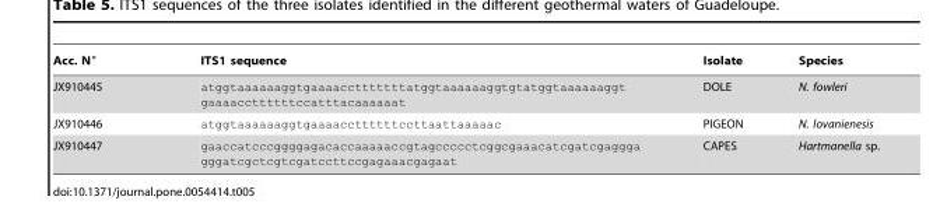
<table><thead><tr><td>Acc. N°</td><td>ITS1 sequence</td><td>Isolate</td><td>Species</td></tr></thead><tbody><tr><td>JX910445</td><td>atggtaaaaaaggtgaaaacctttttttatggtaaaaaaggtgtatggtaaaaaaggt gaaaaccttttttccatttacaaaaaat</td><td>DOLE</td><td>N. fowleri</td></tr><tr><td>JX910446</td><td>atggtaaaaaaggtgaaaaccttttttccttaattaaaaac</td><td>PIGEON</td><td>N. lovanienesis</td></tr><tr><td>JX910447</td><td>gaaccatcccggggagacaccaaaaaccgtagccccctcggcgaaacatcgatcgaggga gggatcgctcgtcgatccttccgagaaacgagaat</td><td>CAPES</td><td>Hartmanella sp.</td></tr></tbody></table>